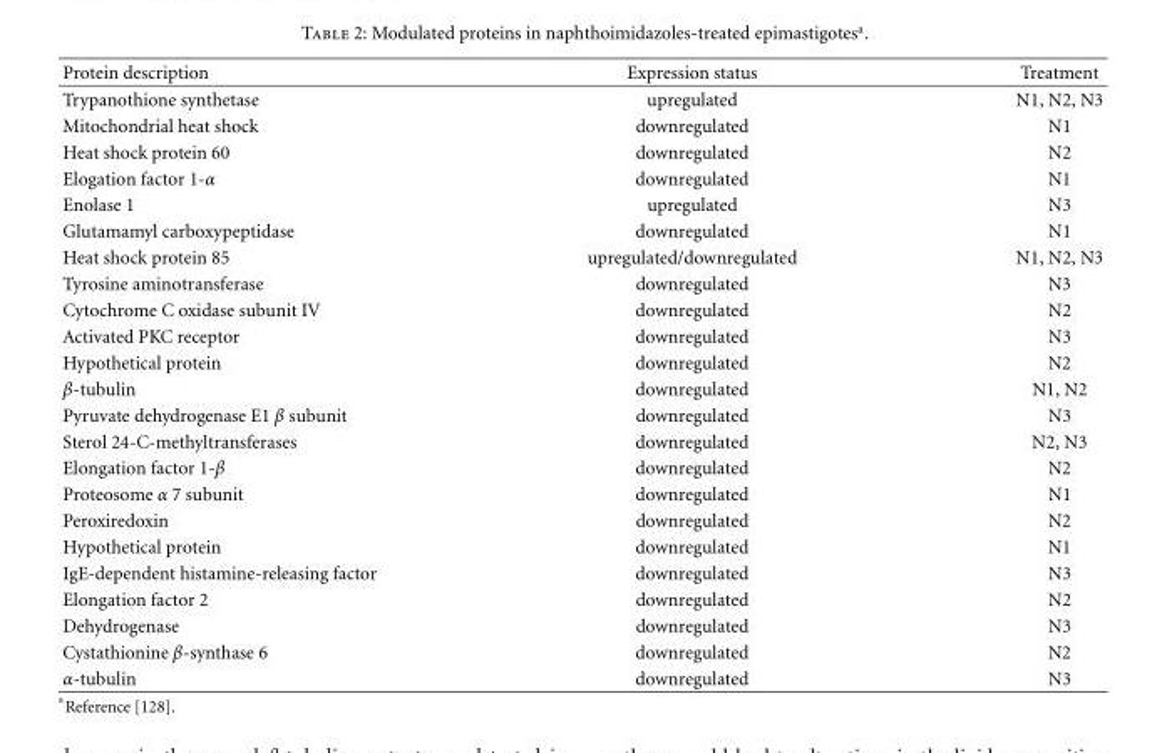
<table><thead><tr><td>Protein description</td><td>Expression status</td><td>Treatment</td></tr></thead><tbody><tr><td>Trypanothione synthetase</td><td>upregulated</td><td>N1, N2, N3</td></tr><tr><td>Mitochondrial heat shock</td><td>downregulated</td><td>N1</td></tr><tr><td>Heat shock protein 60</td><td>downregulated</td><td>N2</td></tr><tr><td>Elogation factor 1-α</td><td>downregulated</td><td>N1</td></tr><tr><td>Enolase 1</td><td>upregulated</td><td>N3</td></tr><tr><td>Glutamamyl carboxypeptidase</td><td>downregulated</td><td>N1</td></tr><tr><td>Heat shock protein 85</td><td>upregulated/downregulated</td><td>N1, N2, N3</td></tr><tr><td>Tyrosine aminotransferase</td><td>downregulated</td><td>N3</td></tr><tr><td>Cytochrome C oxidase subunit IV</td><td>downregulated</td><td>N2</td></tr><tr><td>Activated PKC receptor</td><td>downregulated</td><td>N3</td></tr><tr><td>Hypothetical protein</td><td>downregulated</td><td>N2</td></tr><tr><td>β-tubulin</td><td>downregulated</td><td>N1, N2</td></tr><tr><td>Pyruvate dehydrogenase E1 β subunit</td><td>downregulated</td><td>N3</td></tr><tr><td>Sterol 24-C-methyltransferases</td><td>downregulated</td><td>N2, N3</td></tr><tr><td>Elongation factor 1-β</td><td>downregulated</td><td>N2</td></tr><tr><td>Proteosome α 7 subunit</td><td>downregulated</td><td>N1</td></tr><tr><td>Peroxiredoxin</td><td>downregulated</td><td>N2</td></tr><tr><td>Hypothetical protein</td><td>downregulated</td><td>N1</td></tr><tr><td>IgE-dependent histamine-releasing factor</td><td>downregulated</td><td>N3</td></tr><tr><td>Elongation factor 2</td><td>downregulated</td><td>N2</td></tr><tr><td>Dehydrogenase</td><td>downregulated</td><td>N3</td></tr><tr><td>Cystathionine β-synthase 6</td><td>downregulated</td><td>N2</td></tr><tr><td>α-tubulin</td><td>downregulated</td><td>N3</td></tr></tbody></table>